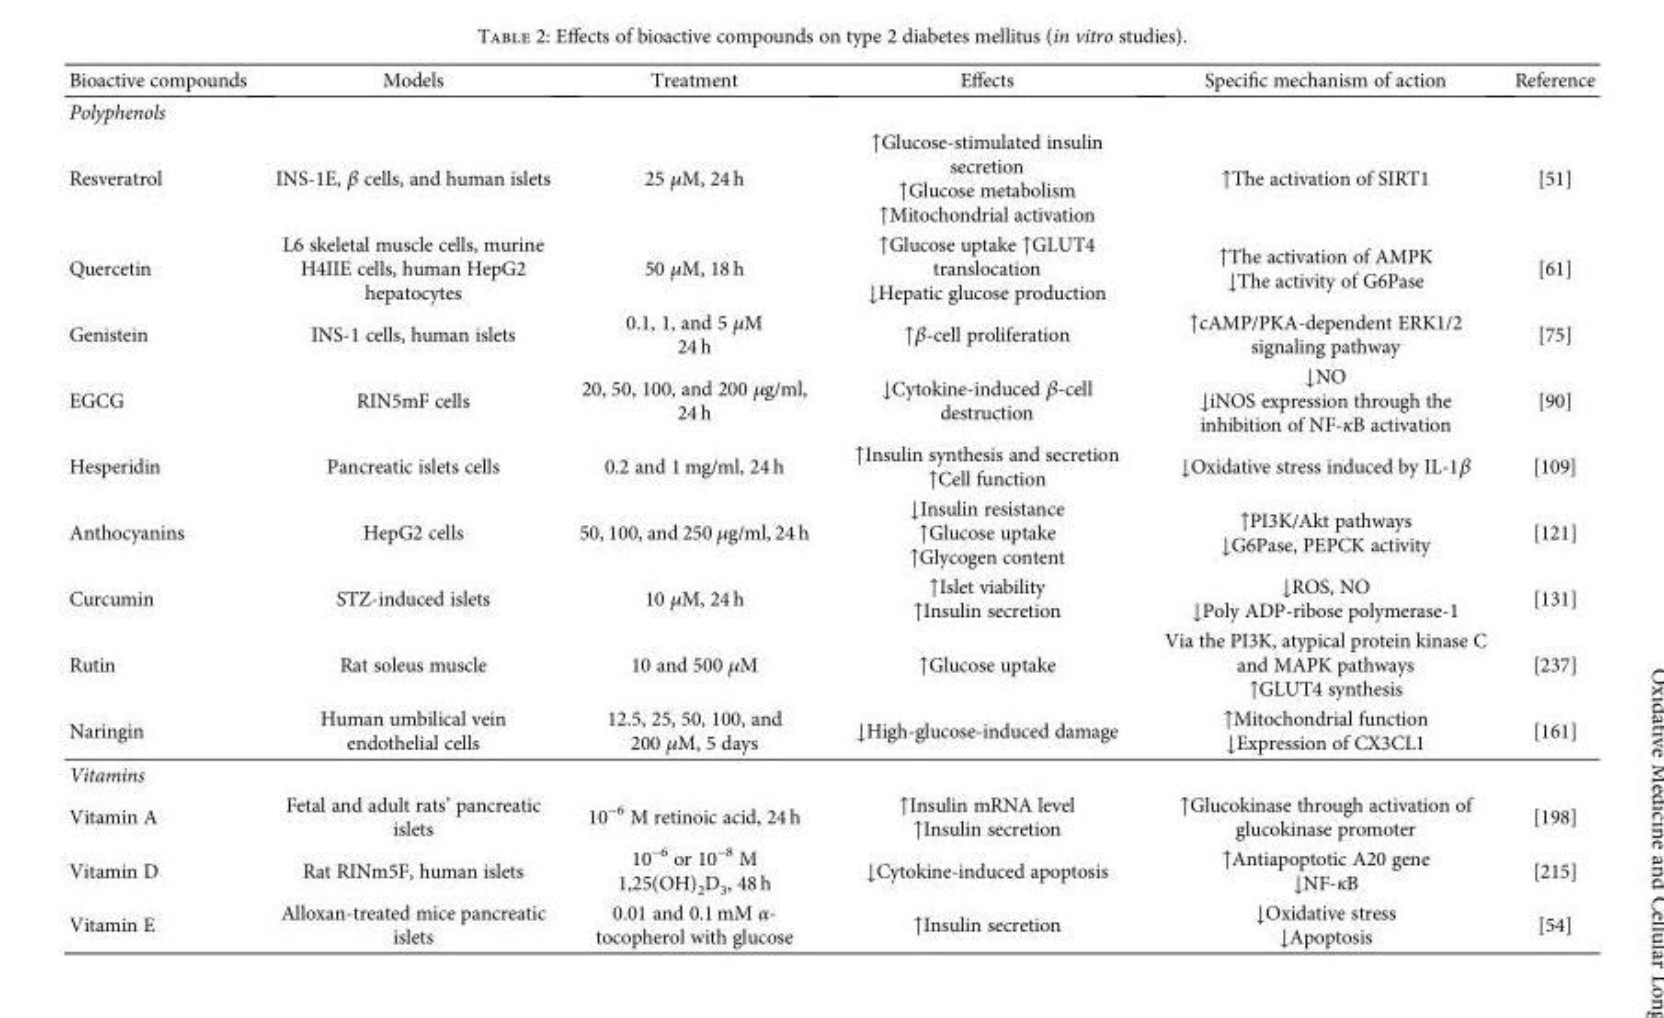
<table><thead><tr><td>Bioactive compounds</td><td>Models</td><td>Treatment</td><td>Effects</td><td>Specific mechanism of action</td><td>Reference</td></tr></thead><tbody><tr><td colspan="6">Polyphenols</td></tr><tr><td>Resveratrol</td><td>INS-1E, β cells, and human islets</td><td>25 μM, 24 h</td><td>↑Glucose-stimulated insulin secretion ↑Glucose metabolism ↑Mitochondrial activation</td><td>↑The activation of SIRT1</td><td>[51]</td></tr><tr><td>Quercetin</td><td>L6 skeletal muscle cells, murine H4IIE cells, human HepG2 hepatocytes</td><td>50 μM, 18 h</td><td>↑Glucose uptake ↑GLUT4 translocation ↓Hepatic glucose production</td><td>↑The activation of AMPK ↓The activity of G6Pase</td><td>[61]</td></tr><tr><td>Genistein</td><td>INS-1 cells, human islets</td><td>0.1, 1, and 5 μM 24 h</td><td>↑β-cell proliferation</td><td>↑cAMP/PKA-dependent ERK1/2 signaling pathway</td><td>[75]</td></tr><tr><td>EGCG</td><td>RIN5mF cells</td><td>20, 50, 100, and 200 μg/ml, 24 h</td><td>↓Cytokine-induced β-cell destruction</td><td>↓NO ↓iNOS expression through the inhibition of NF-κB activation</td><td>[90]</td></tr><tr><td>Hesperidin</td><td>Pancreatic islets cells</td><td>0.2 and 1 mg/ml, 24 h</td><td>↑Insulin synthesis and secretion ↑Cell function</td><td>↓Oxidative stress induced by IL-1β</td><td>[109]</td></tr><tr><td>Anthocyanins</td><td>HepG2 cells</td><td>50, 100, and 250 μg/ml, 24 h</td><td>↓Insulin resistance ↑Glucose uptake ↑Glycogen content</td><td>↑PI3K/Akt pathways ↓G6Pase, PEPCK activity</td><td>[121]</td></tr><tr><td>Curcumin</td><td>STZ-induced islets</td><td>10 μM, 24 h</td><td>↑Islet viability ↑Insulin secretion</td><td>↓ROS, NO ↓Poly ADP-ribose polymerase-1</td><td>[131]</td></tr><tr><td>Rutin</td><td>Rat soleus muscle</td><td>10 and 500 μM</td><td>↑Glucose uptake</td><td>Via the PI3K, atypical protein kinase C and MAPK pathways ↑GLUT4 synthesis</td><td>[237]</td></tr><tr><td>Naringin</td><td>Human umbilical vein endothelial cells</td><td>12.5, 25, 50, 100, and 200 μM, 5 days</td><td>↓High-glucose-induced damage</td><td>↑Mitochondrial function ↓Expression of CX3CL1</td><td>[161]</td></tr><tr><td colspan="6">Vitamins</td></tr><tr><td>Vitamin A</td><td>Fetal and adult rats’ pancreatic islets</td><td>10<sup>−6</sup> M retinoic acid, 24 h</td><td>↑Insulin mRNA level ↑Insulin secretion</td><td>↑Glucokinase through activation of glucokinase promoter</td><td>[198]</td></tr><tr><td>Vitamin D</td><td>Rat RINm5F, human islets</td><td>10<sup>−6</sup> or 10<sup>−8</sup> M 1,25(OH)<sub>2</sub>D<sub>3</sub>, 48 h</td><td>↓Cytokine-induced apoptosis</td><td>↑Antiapoptotic A20 gene ↓NF-κB</td><td>[215]</td></tr><tr><td>Vitamin E</td><td>Alloxan-treated mice pancreatic islets</td><td>0.01 and 0.1 mM α- tocopherol with glucose</td><td>↑Insulin secretion</td><td>↓Oxidative stress ↓Apoptosis</td><td>[54]</td></tr></tbody></table>